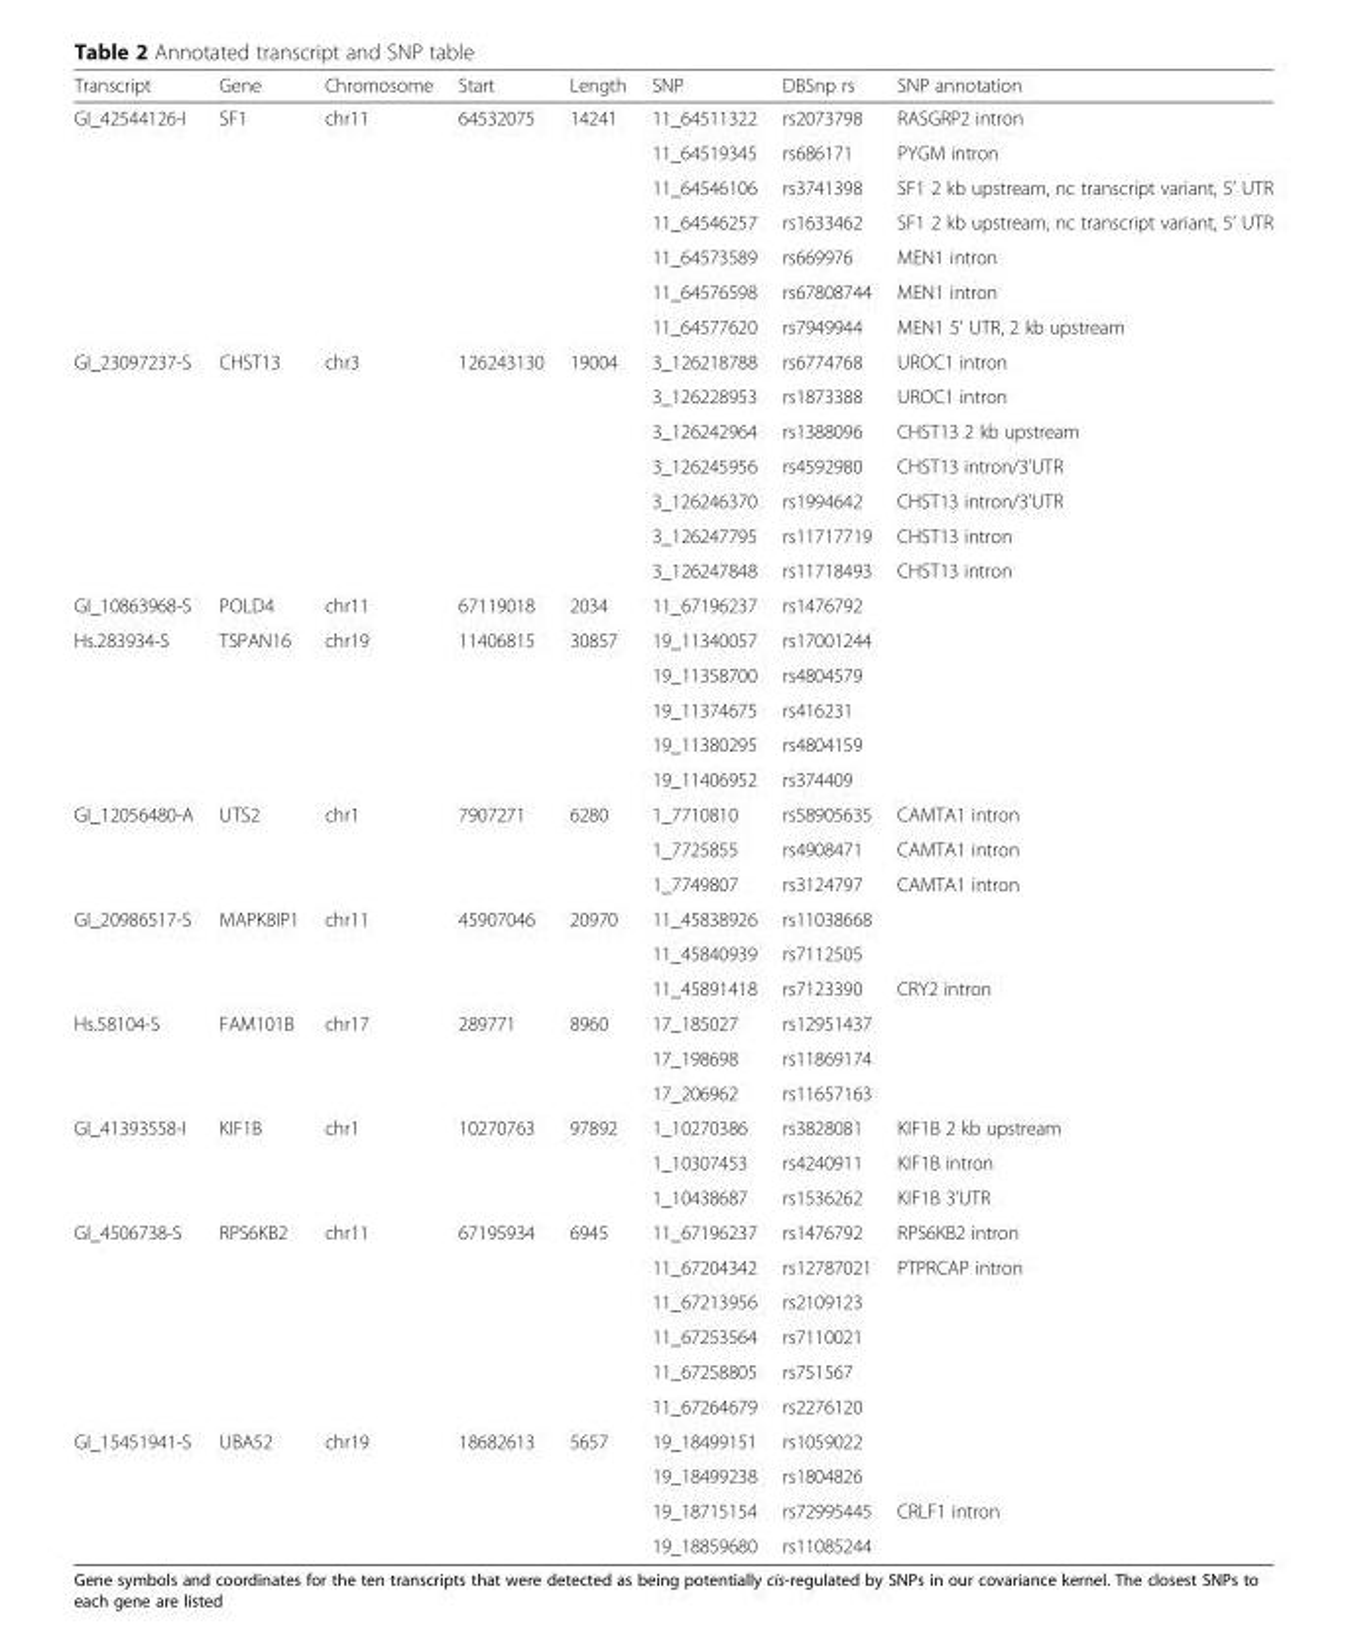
<table><thead><tr><td>Transcript</td><td>Gene</td><td>Chromosome</td><td>Start</td><td>Length</td><td>SNP</td><td>DBSnp rs</td><td>SNP annotation</td></tr></thead><tbody><tr><td rowspan="7">GI_42544126-I</td><td rowspan="7">SF1</td><td rowspan="7">chr11</td><td rowspan="7">64532075</td><td rowspan="7">14241</td><td>11_64511322</td><td>rs2073798</td><td>RASGRP2 intron</td></tr><tr><td>11_64519345</td><td>rs686171</td><td>PYGM intron</td></tr><tr><td>11_64546106</td><td>rs3741398</td><td>SF1 2 kb upstream, nc transcript variant, 5’ UTR</td></tr><tr><td>11_64546257</td><td>rs1633462</td><td>SF1 2 kb upstream, nc transcript variant, 5’ UTR</td></tr><tr><td>11_64573589</td><td>rs669976</td><td>MEN1 intron</td></tr><tr><td>11_64576598</td><td>rs67808744</td><td>MEN1 intron</td></tr><tr><td>11_64577620</td><td>rs7949944</td><td>MEN1 5’ UTR, 2 kb upstream</td></tr><tr><td rowspan="7">GI_23097237-S</td><td rowspan="7">CHST13</td><td rowspan="7">chr3</td><td rowspan="7">126243130</td><td rowspan="7">19004</td><td>3_126218788</td><td>rs6774768</td><td>UROC1 intron</td></tr><tr><td>3_126228953</td><td>rs1873388</td><td>UROC1 intron</td></tr><tr><td>3_126242964</td><td>rs1388096</td><td>CHST13 2 kb upstream</td></tr><tr><td>3_126245956</td><td>rs4592980</td><td>CHST13 intron/3’UTR</td></tr><tr><td>3_126246370</td><td>rs1994642</td><td>CHST13 intron/3’UTR</td></tr><tr><td>3_126247795</td><td>rs11717719</td><td>CHST13 intron</td></tr><tr><td>3_126247848</td><td>rs11718493</td><td>CHST13 intron</td></tr><tr><td>GI_10863968-S</td><td>POLD4</td><td>chr11</td><td>67119018</td><td>2034</td><td>11_67196237</td><td>rs1476792</td><td></td></tr><tr><td rowspan="5">Hs.283934-S</td><td rowspan="5">TSPAN16</td><td rowspan="5">chr19</td><td rowspan="5">11406815</td><td rowspan="5">30857</td><td>19_11340057</td><td>rs17001244</td><td></td></tr><tr><td>19_11358700</td><td>rs4804579</td><td></td></tr><tr><td>19_11374675</td><td>rs416231</td><td></td></tr><tr><td>19_11380295</td><td>rs4804159</td><td></td></tr><tr><td>19_11406952</td><td>rs374409</td><td></td></tr><tr><td rowspan="3">GI_12056480-A</td><td rowspan="3">UTS2</td><td rowspan="3">chr1</td><td rowspan="3">7907271</td><td rowspan="3">6280</td><td>1_7710810</td><td>rs58905635</td><td>CAMTA1 intron</td></tr><tr><td>1_7725855</td><td>rs4908471</td><td>CAMTA1 intron</td></tr><tr><td>1_7749807</td><td>rs3124797</td><td>CAMTA1 intron</td></tr><tr><td rowspan="3">GI_20986517-S</td><td rowspan="3">MAPK8IP1</td><td rowspan="3">chr11</td><td rowspan="3">45907046</td><td rowspan="3">20970</td><td>11_45838926</td><td>rs11038668</td><td></td></tr><tr><td>11_45840939</td><td>rs7112505</td><td></td></tr><tr><td>11_45891418</td><td>rs7123390</td><td>CRY2 intron</td></tr><tr><td rowspan="3">Hs.58104-S</td><td rowspan="3">FAM101B</td><td rowspan="3">chr17</td><td rowspan="3">289771</td><td rowspan="3">8960</td><td>17_185027</td><td>rs12951437</td><td></td></tr><tr><td>17_198698</td><td>rs11869174</td><td></td></tr><tr><td>17_206962</td><td>rs11657163</td><td></td></tr><tr><td rowspan="3">GI_41393558-I</td><td rowspan="3">KIF1B</td><td rowspan="3">chr1</td><td rowspan="3">10270763</td><td rowspan="3">97892</td><td>1_10270386</td><td>rs3828081</td><td>KIF1B 2 kb upstream</td></tr><tr><td>1_10307453</td><td>rs4240911</td><td>KIF1B intron</td></tr><tr><td>1_10438687</td><td>rs1536262</td><td>KIF1B 3’UTR</td></tr><tr><td rowspan="6">GI_4506738-S</td><td rowspan="6">RPS6KB2</td><td rowspan="6">chr11</td><td rowspan="6">67195934</td><td rowspan="6">6945</td><td>11_67196237</td><td>rs1476792</td><td>RPS6KB2 intron</td></tr><tr><td>11_67204342</td><td>rs12787021</td><td>PTPRCAP intron</td></tr><tr><td>11_67213956</td><td>rs2109123</td><td></td></tr><tr><td>11_67253564</td><td>rs7110021</td><td></td></tr><tr><td>11_67258805</td><td>rs751567</td><td></td></tr><tr><td>11_67264679</td><td>rs2276120</td><td></td></tr><tr><td rowspan="4">GI_15451941-S</td><td rowspan="4">UBA52</td><td rowspan="4">chr19</td><td rowspan="4">18682613</td><td rowspan="4">5657</td><td>19_18499151</td><td>rs1059022</td><td></td></tr><tr><td>19_18499238</td><td>rs1804826</td><td></td></tr><tr><td>19_18715154</td><td>rs72995445</td><td>CRLF1 intron</td></tr><tr><td>19_18859680</td><td>rs11085244</td><td></td></tr></tbody></table>